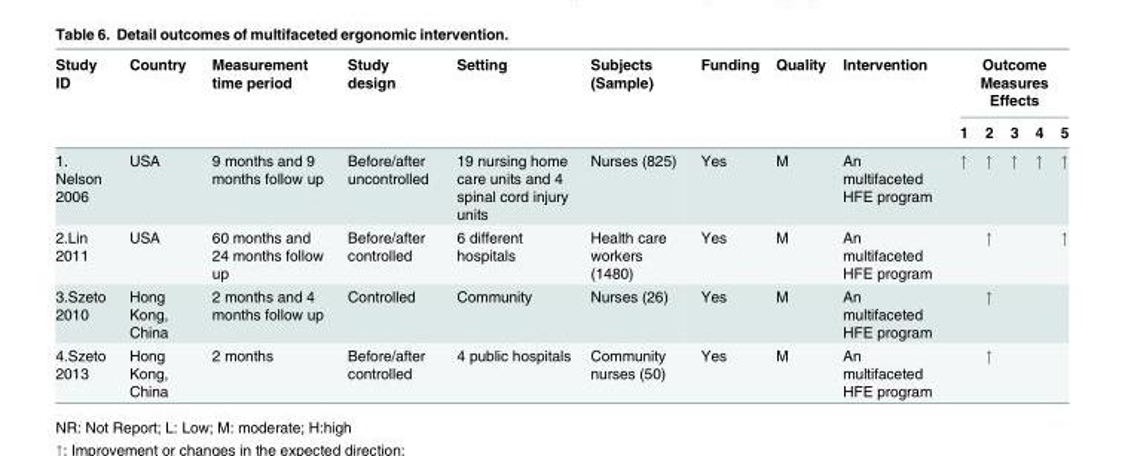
<table><thead><tr><td rowspan="2">Study ID</td><td rowspan="2">Country</td><td rowspan="2">Measurement time period</td><td rowspan="2">Study design</td><td rowspan="2">Setting</td><td rowspan="2">Subjects (Sample)</td><td rowspan="2">Funding</td><td rowspan="2">Quality</td><td rowspan="2">Intervention</td><td colspan="5">Outcome Measures Effects</td></tr><tr><td>1</td><td>2</td><td>3</td><td>4</td><td>5</td></tr></thead><tbody><tr><td>1. Nelson 2006</td><td>USA</td><td>9 months and 9 months follow up</td><td>Before/after uncontrolled</td><td>19 nursing home care units and 4 spinal cord injury units</td><td>Nurses (825)</td><td>Yes</td><td>M</td><td>An multifaceted HFE program</td><td>↑</td><td>↑</td><td>↑</td><td>↑</td><td>↑</td></tr><tr><td>2.Lin 2011</td><td>USA</td><td>60 months and 24 months follow up</td><td>Before/after controlled</td><td>6 different hospitals</td><td>Health care workers (1480)</td><td>Yes</td><td>M</td><td>An multifaceted HFE program</td><td></td><td>↑</td><td></td><td></td><td>↑</td></tr><tr><td>3.Szeto 2010</td><td>Hong Kong, China</td><td>2 months and 4 months follow up</td><td>Controlled</td><td>Community</td><td>Nurses (26)</td><td>Yes</td><td>M</td><td>An multifaceted HFE program</td><td></td><td>↑</td><td></td><td></td><td></td></tr><tr><td>4.Szeto 2013</td><td>Hong Kong, China</td><td>2 months</td><td>Before/after controlled</td><td>4 public hospitals</td><td>Community nurses (50)</td><td>Yes</td><td>M</td><td>An multifaceted HFE program</td><td></td><td>↑</td><td></td><td></td><td></td></tr></tbody></table>